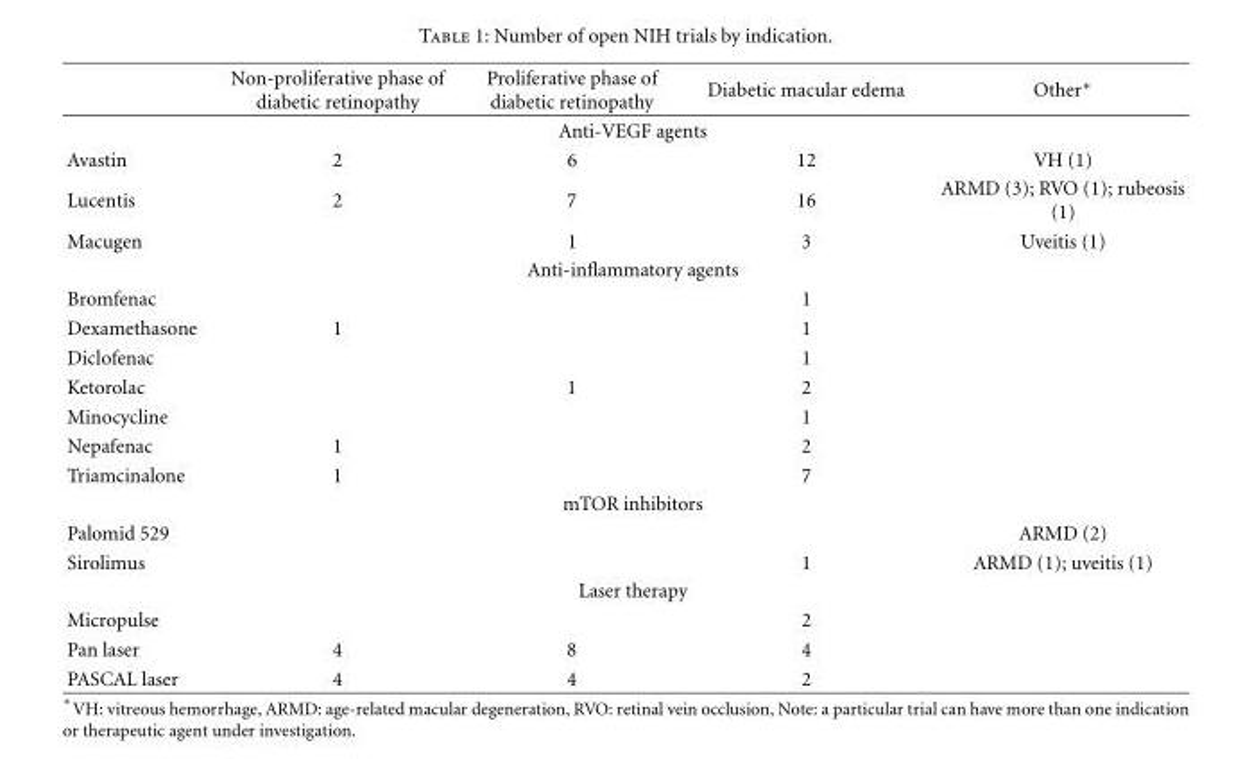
<table><thead><tr><td></td><td>Non-proliferative phase of diabetic retinopathy</td><td>Proliferative phase of diabetic retinopathy</td><td>Diabetic macular edema</td><td>Other∗</td></tr></thead><tbody><tr><td colspan="5">Anti-VEGF agents</td></tr><tr><td>Avastin</td><td>2</td><td>6</td><td>12</td><td>VH (1)</td></tr><tr><td>Lucentis</td><td>2</td><td>7</td><td>16</td><td>ARMD (3); RVO (1); rubeosis (1)</td></tr><tr><td>Macugen</td><td></td><td>1</td><td>3</td><td>Uveitis (1)</td></tr><tr><td colspan="5">Anti-inflammatory agents</td></tr><tr><td>Bromfenac</td><td></td><td></td><td>1</td><td></td></tr><tr><td>Dexamethasone</td><td>1</td><td></td><td>1</td><td></td></tr><tr><td>Diclofenac</td><td></td><td></td><td>1</td><td></td></tr><tr><td>Ketorolac</td><td></td><td>1</td><td>2</td><td></td></tr><tr><td>Minocycline</td><td></td><td></td><td>1</td><td></td></tr><tr><td>Nepafenac</td><td>1</td><td></td><td>2</td><td></td></tr><tr><td>Triamcinalone</td><td>1</td><td></td><td>7</td><td></td></tr><tr><td colspan="5">mTOR inhibitors</td></tr><tr><td>Palomid 529</td><td></td><td></td><td></td><td>ARMD (2)</td></tr><tr><td>Sirolimus</td><td></td><td></td><td>1</td><td>ARMD (1); uveitis (1)</td></tr><tr><td colspan="5">Laser therapy</td></tr><tr><td>Micropulse</td><td></td><td></td><td>2</td><td></td></tr><tr><td>Pan laser</td><td>4</td><td>8</td><td>4</td><td></td></tr><tr><td>PASCAL laser</td><td>4</td><td>4</td><td>2</td><td></td></tr></tbody></table>